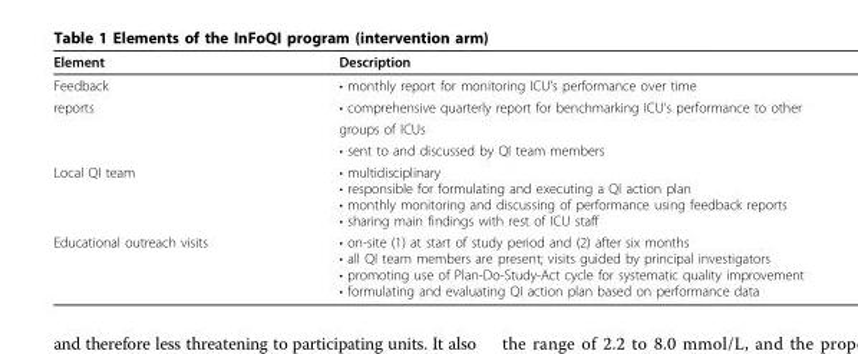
<table><thead><tr><td>Element</td><td>Description</td></tr></thead><tbody><tr><td>Feedback</td><td>• monthly report for monitoring ICU’s performance over time</td></tr><tr><td rowspan="3">reports</td><td>• comprehensive quarterly report for benchmarking ICU’s performance to other</td></tr><tr><td>groups of ICUs</td></tr><tr><td>• sent to and discussed by QI team members</td></tr><tr><td>Local QI team</td><td>• multidisciplinary • responsible for formulating and executing a QI action plan • monthly monitoring and discussing of performance using feedback reports • sharing main findings with rest of ICU staff</td></tr><tr><td>Educational outreach visits</td><td>• on-site (1) at start of study period and (2) after six months • all QI team members are present; visits guided by principal investigators • promoting use of Plan-Do-Study-Act cycle for systematic quality improvement • formulating and evaluating QI action plan based on performance data</td></tr></tbody></table>